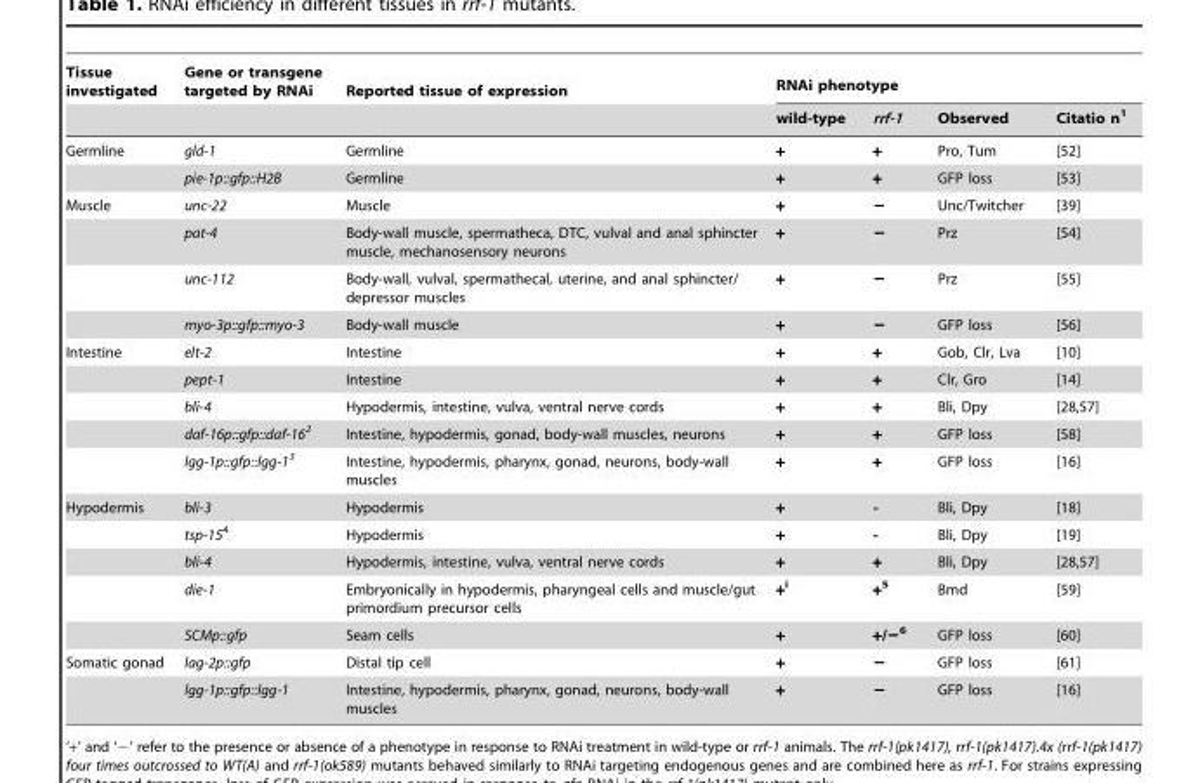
<table><thead><tr><td rowspan="2">Tissue investigated</td><td rowspan="2">Gene or transgene targeted by RNAi</td><td rowspan="2">Reported tissue of expression</td><td colspan="4">RNAi phenotype</td></tr><tr><td>wild-type</td><td>rrf-1</td><td>Observed</td><td>Citatio n<sup>1</sup></td></tr></thead><tbody><tr><td rowspan="2">Germline</td><td>gld-1</td><td>Germline</td><td>+</td><td>+</td><td>Pro, Tum</td><td>[52]</td></tr><tr><td>pie-1p::gfp::H2B</td><td>Germline</td><td>+</td><td>+</td><td>GFP loss</td><td>[53]</td></tr><tr><td rowspan="4">Muscle</td><td>unc-22</td><td>Muscle</td><td>+</td><td>−</td><td>Unc/Twitcher</td><td>[39]</td></tr><tr><td>pat-4</td><td>Body-wall muscle, spermatheca, DTC, vulval and anal sphincter muscle, mechanosensory neurons</td><td>+</td><td>−</td><td>Prz</td><td>[54]</td></tr><tr><td>unc-112</td><td>Body-wall, vulval, spermathecal, uterine, and anal sphincter/ depressor muscles</td><td>+</td><td>−</td><td>Prz</td><td>[55]</td></tr><tr><td>myo-3p::gfp::myo-3</td><td>Body-wall muscle</td><td>+</td><td>−</td><td>GFP loss</td><td>[56]</td></tr><tr><td rowspan="5">Intestine</td><td>elt-2</td><td>Intestine</td><td>+</td><td>+</td><td>Gob, Clr, Lva</td><td>[10]</td></tr><tr><td>pept-1</td><td>Intestine</td><td>+</td><td>+</td><td>Clr, Gro</td><td>[14]</td></tr><tr><td>bli-4</td><td>Hypodermis, intestine, vulva, ventral nerve cords</td><td>+</td><td>+</td><td>Bli, Dpy</td><td>[28,57]</td></tr><tr><td>daf-16p::gfp::daf-162</td><td>Intestine, hypodermis, gonad, body-wall muscles, neurons</td><td>+</td><td>+</td><td>GFP loss</td><td>[58]</td></tr><tr><td>lgg-1p::gfp::lgg-13</td><td>Intestine, hypodermis, pharynx, gonad, neurons, body-wall muscles</td><td>+</td><td>+</td><td>GFP loss</td><td>[16]</td></tr><tr><td rowspan="5">Hypodermis</td><td>bli-3</td><td>Hypodermis</td><td>+</td><td>-</td><td>Bli, Dpy</td><td>[18]</td></tr><tr><td>tsp-154</td><td>Hypodermis</td><td>+</td><td>-</td><td>Bli, Dpy</td><td>[19]</td></tr><tr><td>bli-4</td><td>Hypodermis, intestine, vulva, ventral nerve cords</td><td>+</td><td>+</td><td>Bli, Dpy</td><td>[28,57]</td></tr><tr><td>die-1</td><td>Embryonically in hypodermis, pharyngeal cells and muscle/gut primordium precursor cells</td><td>+<sup>i</sup></td><td>+5</td><td>Bmd</td><td>[59]</td></tr><tr><td>SCMp::gfp</td><td>Seam cells</td><td>+</td><td>+/−6</td><td>GFP loss</td><td>[60]</td></tr><tr><td rowspan="2">Somatic gonad</td><td>lag-2p::gfp</td><td>Distal tip cell</td><td>+</td><td>−</td><td>GFP loss</td><td>[61]</td></tr><tr><td>lgg-1p::gfp::lgg-1</td><td>Intestine, hypodermis, pharynx, gonad, neurons, body-wall muscles</td><td>+</td><td>−</td><td>GFP loss</td><td>[16]</td></tr></tbody></table>